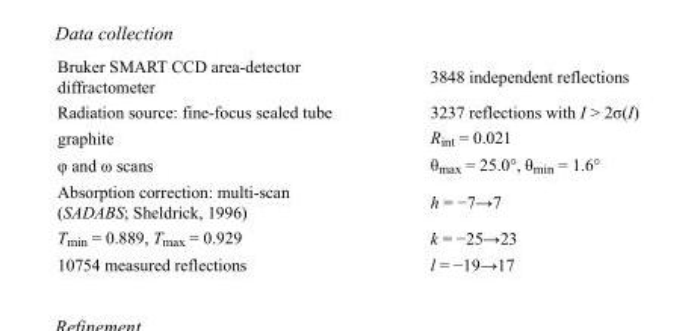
<table><tbody><tr><td>Bruker SMART CCD area-detector diffractometer</td><td>3848 independent reflections</td></tr><tr><td>Radiation source: fine-focus sealed tube</td><td>3237 reflections with I &gt; 2σ(I)</td></tr><tr><td>graphite</td><td>R<sub>int</sub> = 0.021</td></tr><tr><td>φ and ω scans</td><td>θ<sub>max</sub> = 25.0°, θ<sub>min</sub> = 1.6°</td></tr><tr><td>Absorption correction: multi-scan (SADABS; Sheldrick, 1996)</td><td>h = −7→7</td></tr><tr><td>T<sub>min</sub> = 0.889, T<sub>max</sub> = 0.929</td><td>k = −25→23</td></tr><tr><td>10754 measured reflections</td><td>l = −19→17</td></tr></tbody></table>